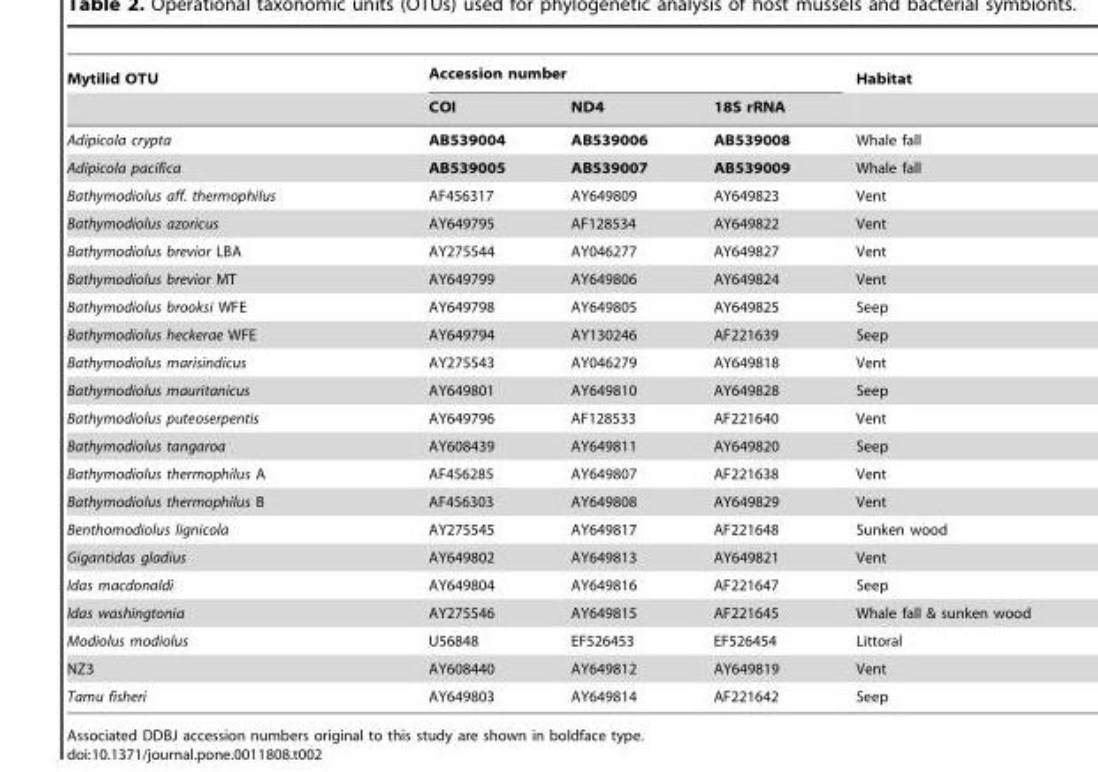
<table><thead><tr><td rowspan="2">Mytilid OTU</td><td colspan="3">Accession number</td><td rowspan="2">Habitat</td></tr><tr><td>COI</td><td>ND4</td><td>18S rRNA</td></tr></thead><tbody><tr><td>Adipicola crypta</td><td>AB539004</td><td>AB539006</td><td>AB539008</td><td>Whale fall</td></tr><tr><td>Adipicola pacifica</td><td>AB539005</td><td>AB539007</td><td>AB539009</td><td>Whale fall</td></tr><tr><td>Bathymodiolus aff. thermophilus</td><td>AF456317</td><td>AY649809</td><td>AY649823</td><td>Vent</td></tr><tr><td>Bathymodiolus azoricus</td><td>AY649795</td><td>AF128534</td><td>AY649822</td><td>Vent</td></tr><tr><td>Bathymodiolus brevior LBA</td><td>AY275544</td><td>AY046277</td><td>AY649827</td><td>Vent</td></tr><tr><td>Bathymodiolus brevior MT</td><td>AY649799</td><td>AY649806</td><td>AY649824</td><td>Vent</td></tr><tr><td>Bathymodiolus brooksi WFE</td><td>AY649798</td><td>AY649805</td><td>AY649825</td><td>Seep</td></tr><tr><td>Bathymodiolus heckerae WFE</td><td>AY649794</td><td>AY130246</td><td>AF221639</td><td>Seep</td></tr><tr><td>Bathymodiolus marisindicus</td><td>AY275543</td><td>AY046279</td><td>AY649818</td><td>Vent</td></tr><tr><td>Bathymodiolus mauritanicus</td><td>AY649801</td><td>AY649810</td><td>AY649828</td><td>Seep</td></tr><tr><td>Bathymodiolus puteoserpentis</td><td>AY649796</td><td>AF128533</td><td>AF221640</td><td>Vent</td></tr><tr><td>Bathymodiolus tangaroa</td><td>AY608439</td><td>AY649811</td><td>AY649820</td><td>Seep</td></tr><tr><td>Bathymodiolus thermophilus A</td><td>AF456285</td><td>AY649807</td><td>AF221638</td><td>Vent</td></tr><tr><td>Bathymodiolus thermophilus B</td><td>AF456303</td><td>AY649808</td><td>AY649829</td><td>Vent</td></tr><tr><td>Benthomodiolus lignicola</td><td>AY275545</td><td>AY649817</td><td>AF221648</td><td>Sunken wood</td></tr><tr><td>Gigantidas gladius</td><td>AY649802</td><td>AY649813</td><td>AY649821</td><td>Vent</td></tr><tr><td>Idas macdonaldi</td><td>AY649804</td><td>AY649816</td><td>AF221647</td><td>Seep</td></tr><tr><td>Idas washingtonia</td><td>AY275546</td><td>AY649815</td><td>AF221645</td><td>Whale fall &amp; sunken wood</td></tr><tr><td>Modiolus modiolus</td><td>U56848</td><td>EF526453</td><td>EF526454</td><td>Littoral</td></tr><tr><td>NZ3</td><td>AY608440</td><td>AY649812</td><td>AY649819</td><td>Vent</td></tr><tr><td>Tamu fisheri</td><td>AY649803</td><td>AY649814</td><td>AF221642</td><td>Seep</td></tr></tbody></table>